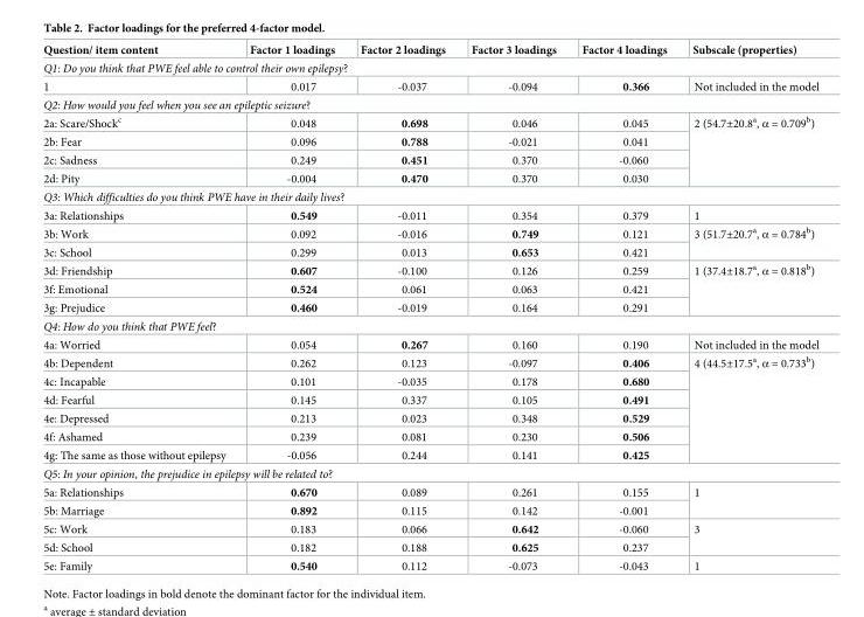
<table><thead><tr><td>Question/ item content</td><td>Factor 1 loadings</td><td>Factor 2 loadings</td><td>Factor 3 loadings</td><td>Factor 4 loadings</td><td>Subscale (properties)</td></tr></thead><tbody><tr><td colspan="6">Q1: Do you think that PWE feel able to control their own epilepsy?</td></tr><tr><td>1</td><td>0.017</td><td>-0.037</td><td>-0.094</td><td>0.366</td><td>Not included in the model</td></tr><tr><td colspan="6">Q2: How would you feel when you see an epileptic seizure?</td></tr><tr><td>2a: Scare/Shock<sup>c</sup></td><td>0.048</td><td>0.698</td><td>0.046</td><td>0.045</td><td rowspan="4">2 (54.7±20.8<sup>a</sup>, α = 0.709<sup>b</sup>)</td></tr><tr><td>2b: Fear</td><td>0.096</td><td>0.788</td><td>-0.021</td><td>0.041</td></tr><tr><td>2c: Sadness</td><td>0.249</td><td>0.451</td><td>0.370</td><td>-0.060</td></tr><tr><td>2d: Pity</td><td>-0.004</td><td>0.470</td><td>0.370</td><td>0.030</td></tr><tr><td colspan="6">Q3: Which difficulties do you think PWE have in their daily lives?</td></tr><tr><td>3a: Relationships</td><td>0.549</td><td>-0.011</td><td>0.354</td><td>0.379</td><td>1</td></tr><tr><td>3b: Work</td><td>0.092</td><td>-0.016</td><td>0.749</td><td>0.121</td><td rowspan="2">3 (51.7±20.7<sup>a</sup>, α = 0.784<sup>b</sup>)</td></tr><tr><td>3c: School</td><td>0.299</td><td>0.013</td><td>0.653</td><td>0.421</td></tr><tr><td>3d: Friendship</td><td>0.607</td><td>-0.100</td><td>0.126</td><td>0.259</td><td rowspan="3">1 (37.4±18.7<sup>a</sup>, α = 0.818<sup>b</sup>)</td></tr><tr><td>3f: Emotional</td><td>0.524</td><td>0.061</td><td>0.063</td><td>0.421</td></tr><tr><td>3g: Prejudice</td><td>0.460</td><td>-0.019</td><td>0.164</td><td>0.291</td></tr><tr><td colspan="6">Q4: How do you think that PWE feel?</td></tr><tr><td>4a: Worried</td><td>0.054</td><td>0.267</td><td>0.160</td><td>0.190</td><td>Not included in the model</td></tr><tr><td>4b: Dependent</td><td>0.262</td><td>0.123</td><td>-0.097</td><td>0.406</td><td rowspan="6">4 (44.5±17.5<sup>a</sup>, α = 0.733<sup>b</sup>)</td></tr><tr><td>4c: Incapable</td><td>0.101</td><td>-0.035</td><td>0.178</td><td>0.680</td></tr><tr><td>4d: Fearful</td><td>0.145</td><td>0.337</td><td>0.105</td><td>0.491</td></tr><tr><td>4e: Depressed</td><td>0.213</td><td>0.023</td><td>0.348</td><td>0.529</td></tr><tr><td>4f: Ashamed</td><td>0.239</td><td>0.081</td><td>0.230</td><td>0.506</td></tr><tr><td>4g: The same as those without epilepsy</td><td>-0.056</td><td>0.244</td><td>0.141</td><td>0.425</td></tr><tr><td colspan="6">Q5: In your opinion, the prejudice in epilepsy will be related to?</td></tr><tr><td>5a: Relationships</td><td>0.670</td><td>0.089</td><td>0.261</td><td>0.155</td><td rowspan="2">1</td></tr><tr><td>5b: Marriage</td><td>0.892</td><td>0.115</td><td>0.142</td><td>-0.001</td></tr><tr><td>5c: Work</td><td>0.183</td><td>0.066</td><td>0.642</td><td>-0.060</td><td rowspan="2">3</td></tr><tr><td>5d: School</td><td>0.182</td><td>0.188</td><td>0.625</td><td>0.237</td></tr><tr><td>5e: Family</td><td>0.540</td><td>0.112</td><td>-0.073</td><td>-0.043</td><td>1</td></tr></tbody></table>